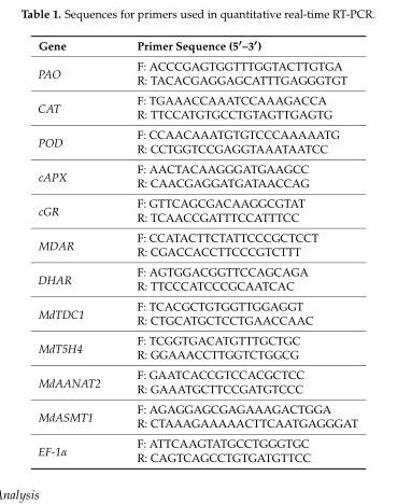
<table><thead><tr><td>Gene</td><td>Primer Sequence (5′–3′)</td></tr></thead><tbody><tr><td rowspan="2">PAO</td><td>F: ACCCGAGTGGTTTGGTACTTGTGA</td></tr><tr><td>R: TACACGAGGAGCATTTGAGGGTGT</td></tr><tr><td rowspan="2">CAT</td><td>F: TGAAACCAAATCCAAAGACCA</td></tr><tr><td>R: TTCCATGTGCCTGTAGTTGAGTG</td></tr><tr><td rowspan="2">POD</td><td>F: CCAACAAATGTGTCCCAAAAATG</td></tr><tr><td>R: CCTGGTCCGAGGTAAATAATCC</td></tr><tr><td rowspan="2">cAPX</td><td>F: AACTACAAGGGATGAAGCC</td></tr><tr><td>R: CAACGAGGATGATAACCAG</td></tr><tr><td rowspan="2">cGR</td><td>F: GTTCAGCGACAAGGCGTAT</td></tr><tr><td>R: TCAACCGATTTCCATTTCC</td></tr><tr><td rowspan="2">MDAR</td><td>F: CCATACTTCTATTCCCGCTCCT</td></tr><tr><td>R: CGACCACCTTCCCGTCTTT</td></tr><tr><td rowspan="2">DHAR</td><td>F: AGTGGACGGTTCCAGCAGA</td></tr><tr><td>R: TTCCCATCCCGCAATCAC</td></tr><tr><td rowspan="2">MdTDC1</td><td>F: TCACGCTGTGGTTGGAGGT</td></tr><tr><td>R: CTGCATGCTCCTGAACCAAC</td></tr><tr><td rowspan="2">MdT5H4</td><td>F: TCGGTGACATGTTTGCTGC</td></tr><tr><td>R: GGAAACCTTGGTCTGGCG</td></tr><tr><td rowspan="2">MdAANAT2</td><td>F: GAATCACCGTCCACGCTCC</td></tr><tr><td>R: GAAATGCTTCCGATGTCCC</td></tr><tr><td rowspan="2">MdASMT1</td><td>F: AGAGGAGCGAGAAAGACTGGA</td></tr><tr><td>R: CTAAAGAAAAACTTCAATGAGGGAT</td></tr><tr><td rowspan="2">EF-1α</td><td>F: ATTCAAGTATGCCTGGGTGC</td></tr><tr><td>R: CAGTCAGCCTGTGATGTTCC</td></tr></tbody></table>